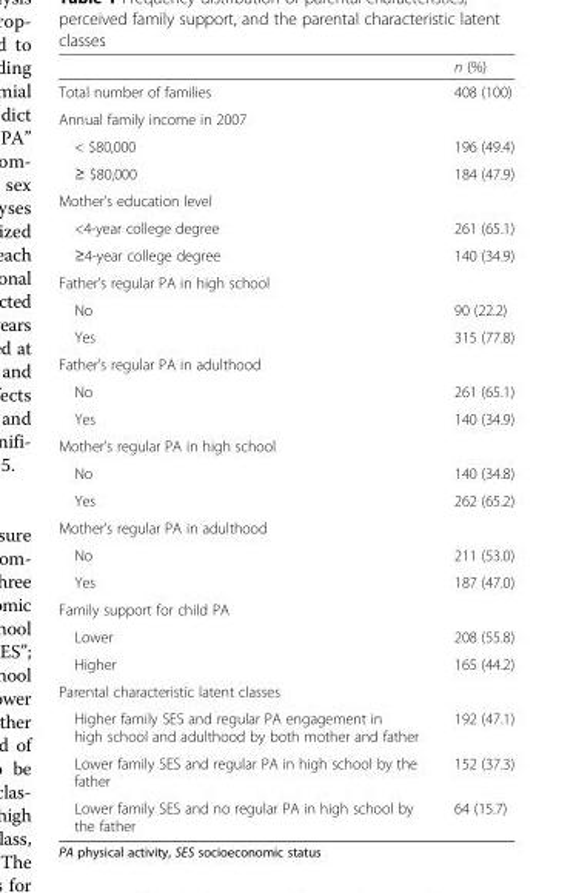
<table><thead><tr><td></td><td>n (%)</td></tr></thead><tbody><tr><td>Total number of families</td><td>408 (100)</td></tr><tr><td colspan="2">Annual family income in 2007</td></tr><tr><td>&lt; $80,000</td><td>196 (49.4)</td></tr><tr><td>≥ $80,000</td><td>184 (47.9)</td></tr><tr><td colspan="2">Mother’s education level</td></tr><tr><td>&lt;4-year college degree</td><td>261 (65.1)</td></tr><tr><td>≥4-year college degree</td><td>140 (34.9)</td></tr><tr><td colspan="2">Father’s regular PA in high school</td></tr><tr><td>No</td><td>90 (22.2)</td></tr><tr><td>Yes</td><td>315 (77.8)</td></tr><tr><td colspan="2">Father’s regular PA in adulthood</td></tr><tr><td>No</td><td>261 (65.1)</td></tr><tr><td>Yes</td><td>140 (34.9)</td></tr><tr><td colspan="2">Mother’s regular PA in high school</td></tr><tr><td>No</td><td>140 (34.8)</td></tr><tr><td>Yes</td><td>262 (65.2)</td></tr><tr><td colspan="2">Mother’s regular PA in adulthood</td></tr><tr><td>No</td><td>211 (53.0)</td></tr><tr><td>Yes</td><td>187 (47.0)</td></tr><tr><td colspan="2">Family support for child PA</td></tr><tr><td>Lower</td><td>208 (55.8)</td></tr><tr><td>Higher</td><td>165 (44.2)</td></tr><tr><td colspan="2">Parental characteristic latent classes</td></tr><tr><td>Higher family SES and regular PA engagement in high school and adulthood by both mother and father</td><td>192 (47.1)</td></tr><tr><td>Lower family SES and regular PA in high school by the father</td><td>152 (37.3)</td></tr><tr><td>Lower family SES and no regular PA in high school by the father</td><td>64 (15.7)</td></tr></tbody></table>